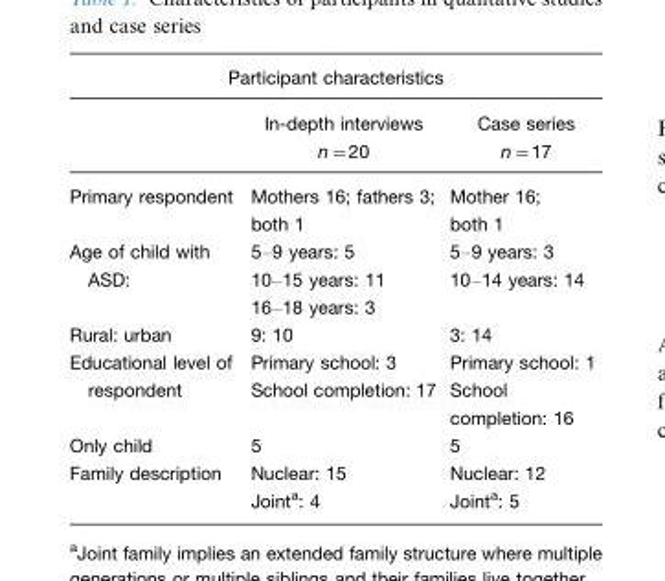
<table><thead><tr><td colspan="3">Participant characteristics</td></tr><tr><td></td><td>In-depth interviews n=20</td><td>Case series n=17</td></tr></thead><tbody><tr><td>Primary respondent</td><td>Mothers 16; fathers 3; both 1</td><td>Mother 16; both 1</td></tr><tr><td>Age of child with ASD:</td><td>5–9 years: 5 10–15 years: 11 16–18 years: 3</td><td>5–9 years: 3 10–14 years: 14</td></tr><tr><td>Rural: urban</td><td>9: 10</td><td>3: 14</td></tr><tr><td>Educational level of respondent</td><td>Primary school: 3 School completion: 17</td><td>Primary school: 1 School completion: 16</td></tr><tr><td>Only child</td><td>5</td><td>5</td></tr><tr><td>Family description</td><td>Nuclear: 15 Joint<sup>a</sup>: 4</td><td>Nuclear: 12 Joint<sup>a</sup>: 5</td></tr></tbody></table>